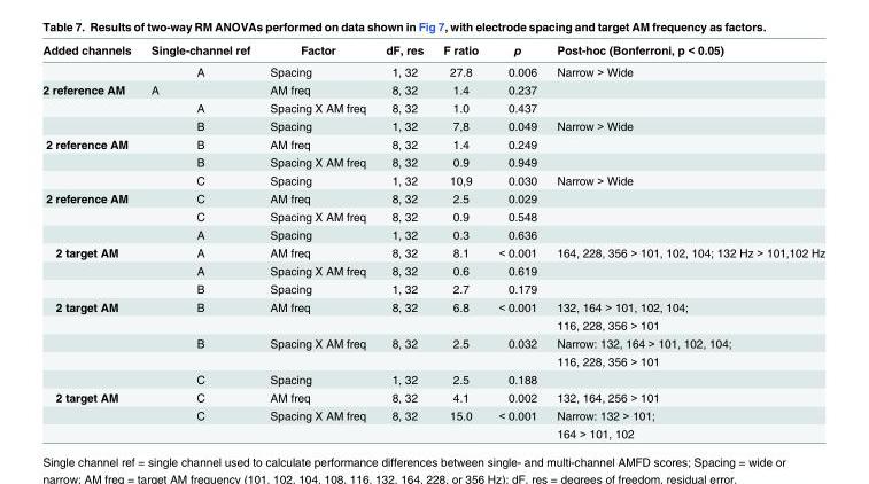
<table><thead><tr><td>Added channels</td><td>Single-channel ref</td><td>Factor</td><td>dF, res</td><td>F ratio</td><td>p</td><td>Post-hoc (Bonferroni, p &lt; 0.05)</td></tr></thead><tbody><tr><td></td><td>A</td><td>Spacing</td><td>1, 32</td><td>27.8</td><td>0.006</td><td>Narrow &gt; Wide</td></tr><tr><td rowspan="3">2 reference AM</td><td>A</td><td>AM freq</td><td>8, 32</td><td>1.4</td><td>0.237</td><td></td></tr><tr><td>A</td><td>Spacing X AM freq</td><td>8, 32</td><td>1.0</td><td>0.437</td><td></td></tr><tr><td>B</td><td>Spacing</td><td>1, 32</td><td>7,8</td><td>0.049</td><td>Narrow &gt; Wide</td></tr><tr><td rowspan="3">2 reference AM</td><td>B</td><td>AM freq</td><td>8, 32</td><td>1.4</td><td>0.249</td><td></td></tr><tr><td>B</td><td>Spacing X AM freq</td><td>8, 32</td><td>0.9</td><td>0.949</td><td></td></tr><tr><td>C</td><td>Spacing</td><td>1, 32</td><td>10,9</td><td>0.030</td><td>Narrow &gt; Wide</td></tr><tr><td rowspan="3">2 reference AM</td><td>C</td><td>AM freq</td><td>8, 32</td><td>2.5</td><td>0.029</td><td></td></tr><tr><td>C</td><td>Spacing X AM freq</td><td>8, 32</td><td>0.9</td><td>0.548</td><td></td></tr><tr><td>A</td><td>Spacing</td><td>1, 32</td><td>0.3</td><td>0.636</td><td></td></tr><tr><td rowspan="3">2 target AM</td><td>A</td><td>AM freq</td><td>8, 32</td><td>8.1</td><td>&lt; 0.001</td><td>164, 228, 356 &gt; 101, 102, 104; 132 Hz &gt; 101,102 Hz</td></tr><tr><td>A</td><td>Spacing X AM freq</td><td>8, 32</td><td>0.6</td><td>0.619</td><td></td></tr><tr><td>B</td><td>Spacing</td><td>1, 32</td><td>2.7</td><td>0.179</td><td></td></tr><tr><td rowspan="5">2 target AM</td><td>B</td><td>AM freq</td><td>8, 32</td><td>6.8</td><td>&lt; 0.001</td><td>132, 164 &gt; 101, 102, 104;</td></tr><tr><td></td><td></td><td></td><td></td><td></td><td>116, 228, 356 &gt; 101</td></tr><tr><td>B</td><td>Spacing X AM freq</td><td>8, 32</td><td>2.5</td><td>0.032</td><td>Narrow: 132, 164 &gt; 101, 102, 104;</td></tr><tr><td></td><td></td><td></td><td></td><td></td><td>116, 228, 356 &gt; 101</td></tr><tr><td>C</td><td>Spacing</td><td>1, 32</td><td>2.5</td><td>0.188</td><td></td></tr><tr><td rowspan="3">2 target AM</td><td>C</td><td>AM freq</td><td>8, 32</td><td>4.1</td><td>0.002</td><td>132, 164, 256 &gt; 101</td></tr><tr><td>C</td><td>Spacing X AM freq</td><td>8, 32</td><td>15.0</td><td>&lt; 0.001</td><td>Narrow: 132 &gt; 101;</td></tr><tr><td></td><td></td><td></td><td></td><td></td><td>164 &gt; 101, 102</td></tr></tbody></table>